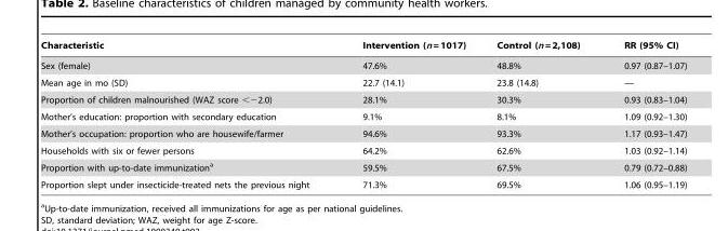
<table><thead><tr><td>Characteristic</td><td>Intervention (n = 1017)</td><td>Control (n = 2,108)</td><td>RR (95% CI)</td></tr></thead><tbody><tr><td>Sex (female)</td><td>47.6%</td><td>48.8%</td><td>0.97 (0.87–1.07)</td></tr><tr><td>Mean age in mo (SD)</td><td>22.7 (14.1)</td><td>23.8 (14.8)</td><td>—</td></tr><tr><td>Proportion of children malnourished (WAZ score &lt;−2.0)</td><td>28.1%</td><td>30.3%</td><td>0.93 (0.83–1.04)</td></tr><tr><td>Mother’s education: proportion with secondary education</td><td>9.1%</td><td>8.1%</td><td>1.09 (0.92–1.30)</td></tr><tr><td>Mother’s occupation: proportion who are housewife/farmer</td><td>94.6%</td><td>93.3%</td><td>1.17 (0.93–1.47)</td></tr><tr><td>Households with six or fewer persons</td><td>64.2%</td><td>62.6%</td><td>1.03 (0.92–1.14)</td></tr><tr><td>Proportion with up-to-date immunization<sup>a</sup></td><td>59.5%</td><td>67.5%</td><td>0.79 (0.72–0.88)</td></tr><tr><td>Proportion slept under insecticide-treated nets the previous night</td><td>71.3%</td><td>69.5%</td><td>1.06 (0.95–1.19)</td></tr></tbody></table>